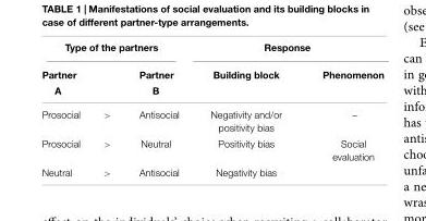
<table><thead><tr><td colspan="3">Type of the partners</td><td colspan="2">Response</td></tr><tr><td rowspan="2">Partner A</td><td rowspan="2"></td><td rowspan="2">Partner B</td><td rowspan="2">Building block</td><td rowspan="2">Phenomenon</td></tr><tr></tr></thead><tbody><tr><td>Prosocial</td><td>&gt;</td><td>Antisocial</td><td>Negativity and/or positivity bias</td><td>–</td></tr><tr><td>Prosocial</td><td>&gt;</td><td>Neutral</td><td>Positivity bias</td><td>Social evaluation</td></tr><tr><td>Neutral</td><td>&gt;</td><td>Antisocial</td><td>Negativity bias</td><td></td></tr></tbody></table>